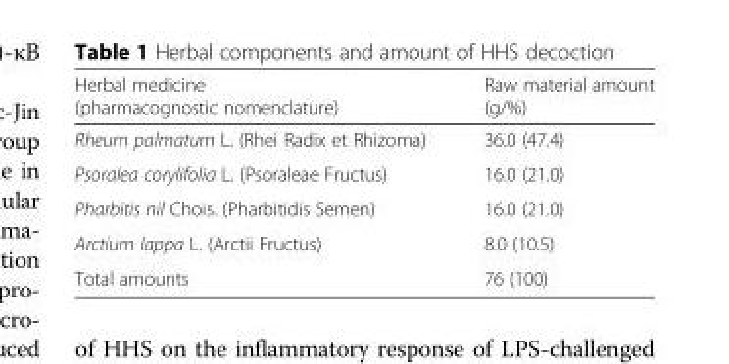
<table><thead><tr><td>Herbal medicine (pharmacognostic nomenclature)</td><td>Raw material amount (g/%)</td></tr></thead><tbody><tr><td>Rheum palmatum L. (Rhei Radix et Rhizoma)</td><td>36.0 (47.4)</td></tr><tr><td>Psoralea corylifolia L. (Psoraleae Fructus)</td><td>16.0 (21.0)</td></tr><tr><td>Pharbitis nil Chois. (Pharbitidis Semen)</td><td>16.0 (21.0)</td></tr><tr><td>Arctium lappa L. (Arctii Fructus)</td><td>8.0 (10.5)</td></tr><tr><td>Total amounts</td><td>76 (100)</td></tr></tbody></table>